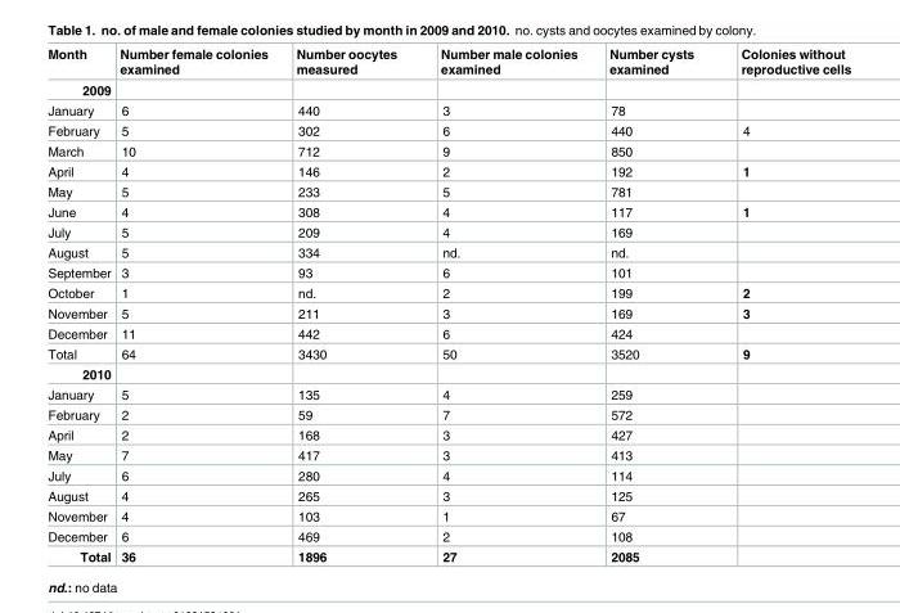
<table><thead><tr><td>Month</td><td>Number female colonies examined</td><td>Number oocytes measured</td><td>Number male colonies examined</td><td>Number cysts examined</td><td>Colonies without reproductive cells</td></tr></thead><tbody><tr><td colspan="6">2009</td></tr><tr><td>January</td><td>6</td><td>440</td><td>3</td><td>78</td><td></td></tr><tr><td>February</td><td>5</td><td>302</td><td>6</td><td>440</td><td>4</td></tr><tr><td>March</td><td>10</td><td>712</td><td>9</td><td>850</td><td></td></tr><tr><td>April</td><td>4</td><td>146</td><td>2</td><td>192</td><td>1</td></tr><tr><td>May</td><td>5</td><td>233</td><td>5</td><td>781</td><td></td></tr><tr><td>June</td><td>4</td><td>308</td><td>4</td><td>117</td><td>1</td></tr><tr><td>July</td><td>5</td><td>209</td><td>4</td><td>169</td><td></td></tr><tr><td>August</td><td>5</td><td>334</td><td>nd.</td><td>nd.</td><td></td></tr><tr><td>September</td><td>3</td><td>93</td><td>6</td><td>101</td><td></td></tr><tr><td>October</td><td>1</td><td>nd.</td><td>2</td><td>199</td><td>2</td></tr><tr><td>November</td><td>5</td><td>211</td><td>3</td><td>169</td><td>3</td></tr><tr><td>December</td><td>11</td><td>442</td><td>6</td><td>424</td><td></td></tr><tr><td>Total</td><td>64</td><td>3430</td><td>50</td><td>3520</td><td>9</td></tr><tr><td colspan="6">2010</td></tr><tr><td>January</td><td>5</td><td>135</td><td>4</td><td>259</td><td></td></tr><tr><td>February</td><td>2</td><td>59</td><td>7</td><td>572</td><td></td></tr><tr><td>April</td><td>2</td><td>168</td><td>3</td><td>427</td><td></td></tr><tr><td>May</td><td>7</td><td>417</td><td>3</td><td>413</td><td></td></tr><tr><td>July</td><td>6</td><td>280</td><td>4</td><td>114</td><td></td></tr><tr><td>August</td><td>4</td><td>265</td><td>3</td><td>125</td><td></td></tr><tr><td>November</td><td>4</td><td>103</td><td>1</td><td>67</td><td></td></tr><tr><td>December</td><td>6</td><td>469</td><td>2</td><td>108</td><td></td></tr><tr><td>Total</td><td>36</td><td>1896</td><td>27</td><td>2085</td><td></td></tr></tbody></table>